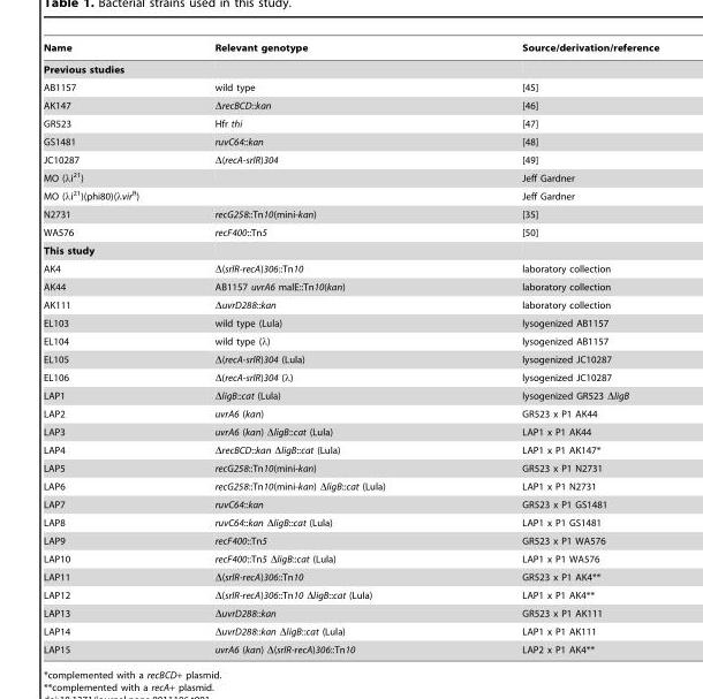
<table><thead><tr><td>Name</td><td>Relevant genotype</td><td>Source/derivation/reference</td></tr></thead><tbody><tr><td colspan="3">Previous studies</td></tr><tr><td>AB1157</td><td>wild type</td><td>[45]</td></tr><tr><td>AK147</td><td>ΔrecBCD::kan</td><td>[46]</td></tr><tr><td>GR523</td><td>Hfr thi</td><td>[47]</td></tr><tr><td>GS1481</td><td>ruvC64::kan</td><td>[48]</td></tr><tr><td>JC10287</td><td>Δ(recA-srlR)304</td><td>[49]</td></tr><tr><td>MO (λi<sup>21</sup>)</td><td></td><td>Jeff Gardner</td></tr><tr><td>MO (λi<sup>21</sup>)(phi80)(λvir<sup>R</sup>)</td><td></td><td>Jeff Gardner</td></tr><tr><td>N2731</td><td>recG258::Tn10(mini-kan)</td><td>[35]</td></tr><tr><td>WA576</td><td>recF400::Tn5</td><td>[50]</td></tr><tr><td colspan="3">This study</td></tr><tr><td>AK4</td><td>Δ(srlR-recA)306::Tn10</td><td>laboratory collection</td></tr><tr><td>AK44</td><td>AB1157 uvrA6 malE::Tn10(kan)</td><td>laboratory collection</td></tr><tr><td>AK111</td><td>ΔuvrD288::kan</td><td>laboratory collection</td></tr><tr><td>EL103</td><td>wild type (Lula)</td><td>lysogenized AB1157</td></tr><tr><td>EL104</td><td>wild type (λ)</td><td>lysogenized AB1157</td></tr><tr><td>EL105</td><td>Δ(recA-srlR)304 (Lula)</td><td>lysogenized JC10287</td></tr><tr><td>EL106</td><td>Δ(recA-srlR)304 (λ)</td><td>lysogenized JC10287</td></tr><tr><td>LAP1</td><td>ΔligB::cat (Lula)</td><td>lysogenized GR523 ΔligB</td></tr><tr><td>LAP2</td><td>uvrA6 (kan)</td><td>GR523 x P1 AK44</td></tr><tr><td>LAP3</td><td>uvrA6 (kan) ΔligB::cat (Lula)</td><td>LAP1 x P1 AK44</td></tr><tr><td>LAP4</td><td>ΔrecBCD::kan ΔligB::cat (Lula)</td><td>LAP1 x P1 AK147*</td></tr><tr><td>LAP5</td><td>recG258::Tn10(mini-kan)</td><td>GR523 x P1 N2731</td></tr><tr><td>LAP6</td><td>recG258::Tn10(mini-kan) ΔligB::cat (Lula)</td><td>LAP1 x P1 N2731</td></tr><tr><td>LAP7</td><td>ruvC64::kan</td><td>GR523 x P1 GS1481</td></tr><tr><td>LAP8</td><td>ruvC64::kan ΔligB::cat (Lula)</td><td>LAP1 x P1 GS1481</td></tr><tr><td>LAP9</td><td>recF400::Tn5</td><td>GR523 x P1 WA576</td></tr><tr><td>LAP10</td><td>recF400::Tn5 ΔligB::cat (Lula)</td><td>LAP1 x P1 WA576</td></tr><tr><td>LAP11</td><td>Δ(srlR-recA)306::Tn10</td><td>GR523 x P1 AK4**</td></tr><tr><td>LAP12</td><td>Δ(srlR-recA)306::Tn10 ΔligB::cat (Lula)</td><td>LAP1 x P1 AK4**</td></tr><tr><td>LAP13</td><td>ΔuvrD288::kan</td><td>GR523 x P1 AK111</td></tr><tr><td>LAP14</td><td>ΔuvrD288::kan ΔligB::cat (Lula)</td><td>LAP1 x P1 AK111</td></tr><tr><td>LAP15</td><td>uvrA6 (kan) Δ(srlR-recA)306::Tn10</td><td>LAP2 x P1 AK4**</td></tr></tbody></table>